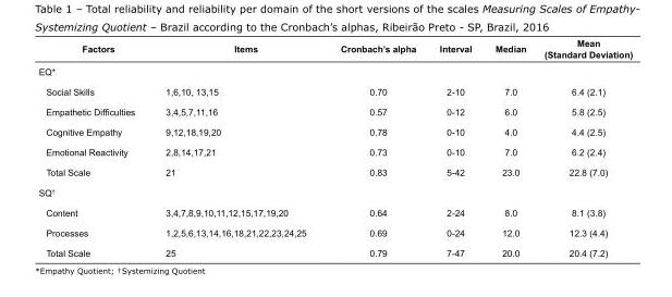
<table><tbody><tr><td>Factors</td><td>Items</td><td>Cronbach’s alpha</td><td>Interval</td><td>Median</td><td>Mean (Standard Deviation)</td></tr><tr><td colspan="6">EQ*</td></tr><tr><td>Social Skills</td><td>1,6,10, 13,15</td><td>0.70</td><td>2-10</td><td>7.0</td><td>6.4 (2.1)</td></tr><tr><td>Empathetic Difficulties</td><td>3,4,5,7,11,16</td><td>0.57</td><td>0-12</td><td>6.0</td><td>5.8 (2.5)</td></tr><tr><td>Cognitive Empathy</td><td>9,12,18,19,20</td><td>0.78</td><td>0-10</td><td>4.0</td><td>4.4 (2.5)</td></tr><tr><td>Emotional Reactivity</td><td>2,8,14,17,21</td><td>0.73</td><td>0-10</td><td>7.0</td><td>6.2 (2.4)</td></tr><tr><td>Total Scale</td><td>21</td><td>0.83</td><td>5-42</td><td>23.0</td><td>22.8 (7.0)</td></tr><tr><td colspan="6">SQ<sup>†</sup></td></tr><tr><td>Content</td><td>3,4,7,8,9,10,11,12,15,17,19,20</td><td>0.64</td><td>2-24</td><td>8.0</td><td>8.1 (3.8)</td></tr><tr><td>Processes</td><td>1,2,5,6,13,14,16,18,21,22,23,24,25</td><td>0.69</td><td>0-24</td><td>12.0</td><td>12.3 (4.4)</td></tr><tr><td>Total Scale</td><td>25</td><td>0.79</td><td>7-47</td><td>20.0</td><td>20.4 (7.2)</td></tr></tbody></table>